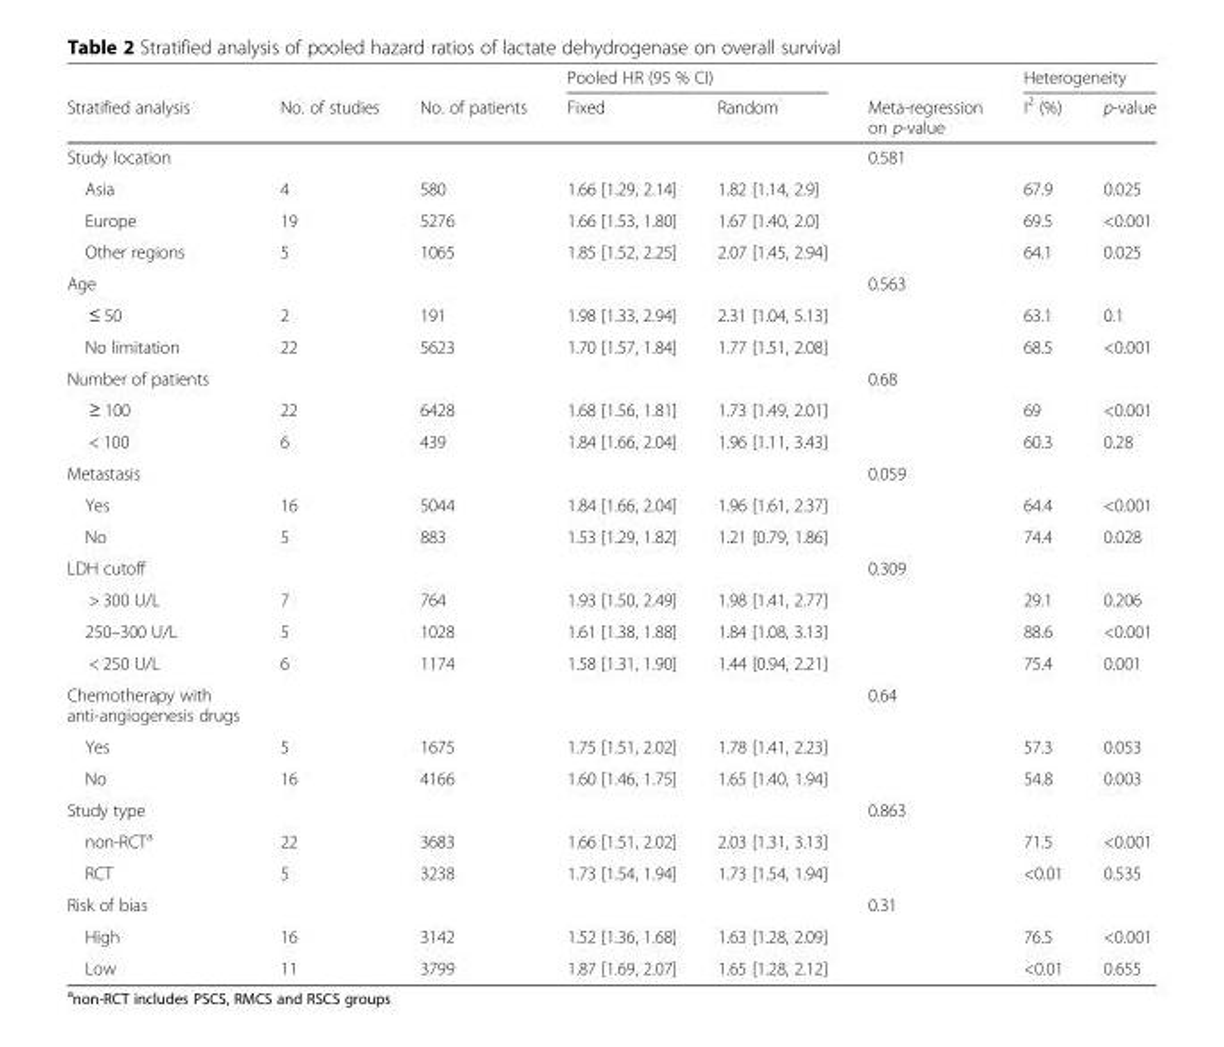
<table><thead><tr><td rowspan="2">Stratified analysis</td><td rowspan="2">No. of studies</td><td rowspan="2">No. of patients</td><td colspan="2">Pooled HR (95 % CI)</td><td rowspan="2">Meta-regression on p-value</td><td colspan="2">Heterogeneity</td></tr><tr><td>Fixed</td><td>Random</td><td>I<sup>2</sup> (%)</td><td>p-value</td></tr></thead><tbody><tr><td>Study location</td><td></td><td></td><td></td><td></td><td>0.581</td><td></td><td></td></tr><tr><td>Asia</td><td>4</td><td>580</td><td>1.66 [1.29, 2.14]</td><td>1.82 [1.14, 2.9]</td><td></td><td>67.9</td><td>0.025</td></tr><tr><td>Europe</td><td>19</td><td>5276</td><td>1.66 [1.53, 1.80]</td><td>1.67 [1.40, 2.0]</td><td></td><td>69.5</td><td>&lt;0.001</td></tr><tr><td>Other regions</td><td>5</td><td>1065</td><td>1.85 [1.52, 2.25]</td><td>2.07 [1.45, 2.94]</td><td></td><td>64.1</td><td>0.025</td></tr><tr><td>Age</td><td></td><td></td><td></td><td></td><td>0.563</td><td></td><td></td></tr><tr><td>≤ 50</td><td>2</td><td>191</td><td>1.98 [1.33, 2.94]</td><td>2.31 [1.04, 5.13]</td><td></td><td>63.1</td><td>0.1</td></tr><tr><td>No limitation</td><td>22</td><td>5623</td><td>1.70 [1.57, 1.84]</td><td>1.77 [1.51, 2.08]</td><td></td><td>68.5</td><td>&lt;0.001</td></tr><tr><td>Number of patients</td><td></td><td></td><td></td><td></td><td>0.68</td><td></td><td></td></tr><tr><td>≥ 100</td><td>22</td><td>6428</td><td>1.68 [1.56, 1.81]</td><td>1.73 [1.49, 2.01]</td><td></td><td>69</td><td>&lt;0.001</td></tr><tr><td>&lt; 100</td><td>6</td><td>439</td><td>1.84 [1.66, 2.04]</td><td>1.96 [1.11, 3.43]</td><td></td><td>60.3</td><td>0.28</td></tr><tr><td>Metastasis</td><td></td><td></td><td></td><td></td><td>0.059</td><td></td><td></td></tr><tr><td>Yes</td><td>16</td><td>5044</td><td>1.84 [1.66, 2.04]</td><td>1.96 [1.61, 2.37]</td><td></td><td>64.4</td><td>&lt;0.001</td></tr><tr><td>No</td><td>5</td><td>883</td><td>1.53 [1.29, 1.82]</td><td>1.21 [0.79, 1.86]</td><td></td><td>74.4</td><td>0.028</td></tr><tr><td>LDH cutoff</td><td></td><td></td><td></td><td></td><td>0.309</td><td></td><td></td></tr><tr><td>&gt; 300 U/L</td><td>7</td><td>764</td><td>1.93 [1.50, 2.49]</td><td>1.98 [1.41, 2.77]</td><td></td><td>29.1</td><td>0.206</td></tr><tr><td>250–300 U/L</td><td>5</td><td>1028</td><td>1.61 [1.38, 1.88]</td><td>1.84 [1.08, 3.13]</td><td></td><td>88.6</td><td>&lt;0.001</td></tr><tr><td>&lt; 250 U/L</td><td>6</td><td>1174</td><td>1.58 [1.31, 1.90]</td><td>1.44 [0.94, 2.21]</td><td></td><td>75.4</td><td>0.001</td></tr><tr><td>Chemotherapy with anti-angiogenesis drugs</td><td></td><td></td><td></td><td></td><td>0.64</td><td></td><td></td></tr><tr><td>Yes</td><td>5</td><td>1675</td><td>1.75 [1.51, 2.02]</td><td>1.78 [1.41, 2.23]</td><td></td><td>57.3</td><td>0.053</td></tr><tr><td>No</td><td>16</td><td>4166</td><td>1.60 [1.46, 1.75]</td><td>1.65 [1.40, 1.94]</td><td></td><td>54.8</td><td>0.003</td></tr><tr><td>Study type</td><td></td><td></td><td></td><td></td><td>0.863</td><td></td><td></td></tr><tr><td>non-RCT<sup>a</sup></td><td>22</td><td>3683</td><td>1.66 [1.51, 2.02]</td><td>2.03 [1.31, 3.13]</td><td></td><td>71.5</td><td>&lt;0.001</td></tr><tr><td>RCT</td><td>5</td><td>3238</td><td>1.73 [1.54, 1.94]</td><td>1.73 [1.54, 1.94]</td><td></td><td>&lt;0.01</td><td>0.535</td></tr><tr><td>Risk of bias</td><td></td><td></td><td></td><td></td><td>0.31</td><td></td><td></td></tr><tr><td>High</td><td>16</td><td>3142</td><td>1.52 [1.36, 1.68]</td><td>1.63 [1.28, 2.09]</td><td></td><td>76.5</td><td>&lt;0.001</td></tr><tr><td>Low</td><td>11</td><td>3799</td><td>1.87 [1.69, 2.07]</td><td>1.65 [1.28, 2.12]</td><td></td><td>&lt;0.01</td><td>0.655</td></tr></tbody></table>